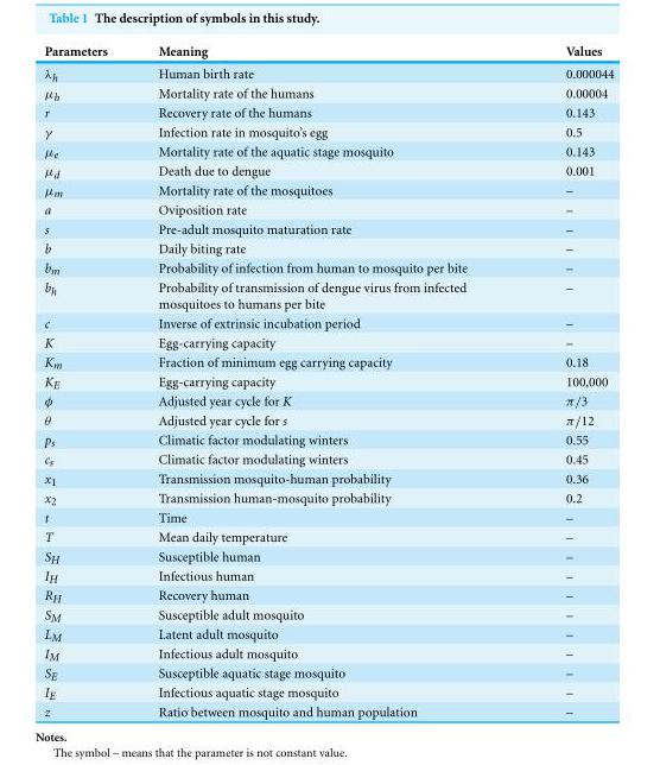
<table><thead><tr><td>Parameters</td><td>Meaning</td><td>Values</td></tr></thead><tbody><tr><td>λh</td><td>Human birth rate</td><td>0.000044</td></tr><tr><td>µh</td><td>Mortality rate of the humans</td><td>0.00004</td></tr><tr><td>r</td><td>Recovery rate of the humans</td><td>0.143</td></tr><tr><td>γ</td><td>Infection rate in mosquito’s egg</td><td>0.5</td></tr><tr><td>µe</td><td>Mortality rate of the aquatic stage mosquito</td><td>0.143</td></tr><tr><td>µd</td><td>Death due to dengue</td><td>0.001</td></tr><tr><td>µm</td><td>Mortality rate of the mosquitoes</td><td>–</td></tr><tr><td>a</td><td>Oviposition rate</td><td>–</td></tr><tr><td>s</td><td>Pre-adult mosquito maturation rate</td><td>–</td></tr><tr><td>b</td><td>Daily biting rate</td><td>–</td></tr><tr><td>bm</td><td>Probability of infection from human to mosquito per bite</td><td>–</td></tr><tr><td>bh</td><td>Probability of transmission of dengue virus from infected mosquitoes to humans per bite</td><td>–</td></tr><tr><td>c</td><td>Inverse of extrinsic incubation period</td><td>–</td></tr><tr><td>K</td><td>Egg-carrying capacity</td><td>–</td></tr><tr><td>Km</td><td>Fraction of minimum egg carrying capacity</td><td>0.18</td></tr><tr><td>KE</td><td>Egg-carrying capacity</td><td>100,000</td></tr><tr><td>φ</td><td>Adjusted year cycle for K</td><td>π/3</td></tr><tr><td>θ</td><td>Adjusted year cycle for s</td><td>π/12</td></tr><tr><td>ps</td><td>Climatic factor modulating winters</td><td>0.55</td></tr><tr><td>cs</td><td>Climatic factor modulating winters</td><td>0.45</td></tr><tr><td>x1</td><td>Transmission mosquito-human probability</td><td>0.36</td></tr><tr><td>x2</td><td>Transmission human-mosquito probability</td><td>0.2</td></tr><tr><td>t</td><td>Time</td><td>–</td></tr><tr><td>T</td><td>Mean daily temperature</td><td>–</td></tr><tr><td>SH</td><td>Susceptible human</td><td>–</td></tr><tr><td>IH</td><td>Infectious human</td><td>–</td></tr><tr><td>RH</td><td>Recovery human</td><td>–</td></tr><tr><td>SM</td><td>Susceptible adult mosquito</td><td>–</td></tr><tr><td>LM</td><td>Latent adult mosquito</td><td>–</td></tr><tr><td>IM</td><td>Infectious adult mosquito</td><td>–</td></tr><tr><td>SE</td><td>Susceptible aquatic stage mosquito</td><td>–</td></tr><tr><td>IE</td><td>Infectious aquatic stage mosquito</td><td>–</td></tr><tr><td>z</td><td>Ratio between mosquito and human population</td><td>–</td></tr></tbody></table>